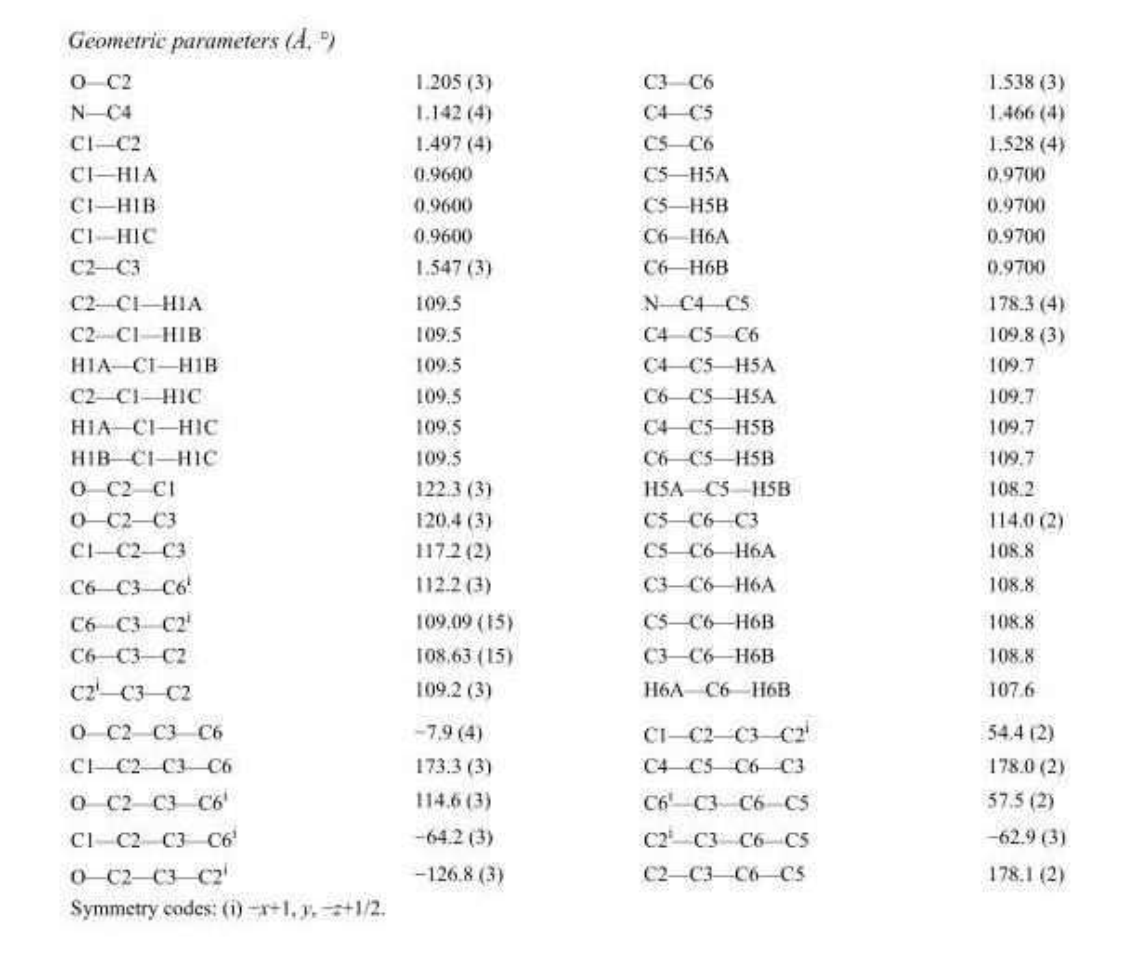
<table><tbody><tr><td>O—C2</td><td>1.205 (3)</td><td>C3—C6</td><td>1.538 (3)</td></tr><tr><td>N—C4</td><td>1.142 (4)</td><td>C4—C5</td><td>1.466 (4)</td></tr><tr><td>C1—C2</td><td>1.497 (4)</td><td>C5—C6</td><td>1.528 (4)</td></tr><tr><td>C1—H1A</td><td>0.9600</td><td>C5—H5A</td><td>0.9700</td></tr><tr><td>C1—H1B</td><td>0.9600</td><td>C5—H5B</td><td>0.9700</td></tr><tr><td>C1—H1C</td><td>0.9600</td><td>C6—H6A</td><td>0.9700</td></tr><tr><td>C2—C3</td><td>1.547 (3)</td><td>C6—H6B</td><td>0.9700</td></tr><tr><td>C2—C1—H1A</td><td>109.5</td><td>N—C4—C5</td><td>178.3 (4)</td></tr><tr><td>C2—C1—H1B</td><td>109.5</td><td>C4—C5—C6</td><td>109.8 (3)</td></tr><tr><td>H1A—C1—H1B</td><td>109.5</td><td>C4—C5—H5A</td><td>109.7</td></tr><tr><td>C2—C1—H1C</td><td>109.5</td><td>C6—C5—H5A</td><td>109.7</td></tr><tr><td>H1A—C1—H1C</td><td>109.5</td><td>C4—C5—H5B</td><td>109.7</td></tr><tr><td>H1B—C1—H1C</td><td>109.5</td><td>C6—C5—H5B</td><td>109.7</td></tr><tr><td>O—C2—C1</td><td>122.3 (3)</td><td>H5A—C5—H5B</td><td>108.2</td></tr><tr><td>O—C2—C3</td><td>120.4 (3)</td><td>C5—C6—C3</td><td>114.0 (2)</td></tr><tr><td>C1—C2—C3</td><td>117.2 (2)</td><td>C5—C6—H6A</td><td>108.8</td></tr><tr><td>C6—C3—C6<sup>i</sup></td><td>112.2 (3)</td><td>C3—C6—H6A</td><td>108.8</td></tr><tr><td>C6—C3—C2<sup>i</sup></td><td>109.09 (15)</td><td>C5—C6—H6B</td><td>108.8</td></tr><tr><td>C6—C3—C2</td><td>108.63 (15)</td><td>C3—C6—H6B</td><td>108.8</td></tr><tr><td>C2<sup>i</sup>—C3—C2</td><td>109.2 (3)</td><td>H6A—C6—H6B</td><td>107.6</td></tr><tr><td>O—C2—C3—C6</td><td>−7.9 (4)</td><td>C1—C2—C3—C2<sup>i</sup></td><td>54.4 (2)</td></tr><tr><td>C1—C2—C3—C6</td><td>173.3 (3)</td><td>C4—C5—C6—C3</td><td>178.0 (2)</td></tr><tr><td>O—C2—C3—C6<sup>i</sup></td><td>114.6 (3)</td><td>C6<sup>i</sup>—C3—C6—C5</td><td>57.5 (2)</td></tr><tr><td>C1—C2—C3—C6<sup>i</sup></td><td>−64.2 (3)</td><td>C2<sup>i</sup>—C3—C6—C5</td><td>−62.9 (3)</td></tr><tr><td>O—C2—C3—C2<sup>i</sup></td><td>−126.8 (3)</td><td>C2—C3—C6—C5</td><td>178.1 (2)</td></tr></tbody></table>